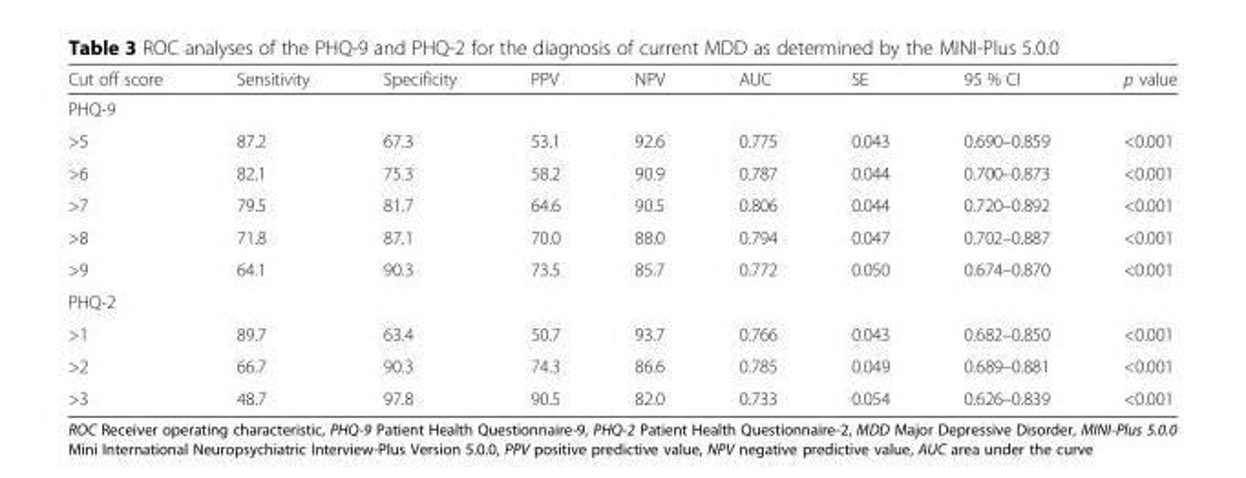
<table><thead><tr><td>Cut off score</td><td>Sensitivity</td><td>Specificity</td><td>PPV</td><td>NPV</td><td>AUC</td><td>SE</td><td>95 % CI</td><td>p value</td></tr></thead><tbody><tr><td colspan="9">PHQ-9</td></tr><tr><td>&gt;5</td><td>87.2</td><td>67.3</td><td>53.1</td><td>92.6</td><td>0.775</td><td>0.043</td><td>0.690–0.859</td><td>&lt;0.001</td></tr><tr><td>&gt;6</td><td>82.1</td><td>75.3</td><td>58.2</td><td>90.9</td><td>0.787</td><td>0.044</td><td>0.700–0.873</td><td>&lt;0.001</td></tr><tr><td>&gt;7</td><td>79.5</td><td>81.7</td><td>64.6</td><td>90.5</td><td>0.806</td><td>0.044</td><td>0.720–0.892</td><td>&lt;0.001</td></tr><tr><td>&gt;8</td><td>71.8</td><td>87.1</td><td>70.0</td><td>88.0</td><td>0.794</td><td>0.047</td><td>0.702–0.887</td><td>&lt;0.001</td></tr><tr><td>&gt;9</td><td>64.1</td><td>90.3</td><td>73.5</td><td>85.7</td><td>0.772</td><td>0.050</td><td>0.674–0.870</td><td>&lt;0.001</td></tr><tr><td colspan="9">PHQ-2</td></tr><tr><td>&gt;1</td><td>89.7</td><td>63.4</td><td>50.7</td><td>93.7</td><td>0.766</td><td>0.043</td><td>0.682–0.850</td><td>&lt;0.001</td></tr><tr><td>&gt;2</td><td>66.7</td><td>90.3</td><td>74.3</td><td>86.6</td><td>0.785</td><td>0.049</td><td>0.689–0.881</td><td>&lt;0.001</td></tr><tr><td>&gt;3</td><td>48.7</td><td>97.8</td><td>90.5</td><td>82.0</td><td>0.733</td><td>0.054</td><td>0.626–0.839</td><td>&lt;0.001</td></tr></tbody></table>